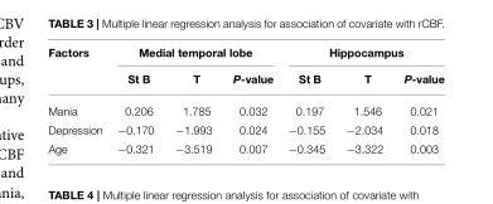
<table><thead><tr><td rowspan="2">Factors</td><td colspan="3">Medial temporal lobe</td><td colspan="3">Hippocampus</td></tr><tr><td>St B</td><td>T</td><td>P-value</td><td>St B</td><td>T</td><td>P-value</td></tr></thead><tbody><tr><td>Mania</td><td>0.206</td><td>1.785</td><td>0.032</td><td>0.197</td><td>1.546</td><td>0.021</td></tr><tr><td>Depression</td><td>−0.170</td><td>−1.993</td><td>0.024</td><td>−0.155</td><td>−2.034</td><td>0.018</td></tr><tr><td>Age</td><td>−0.321</td><td>−3.519</td><td>0.007</td><td>−0.345</td><td>−3.322</td><td>0.003</td></tr></tbody></table>